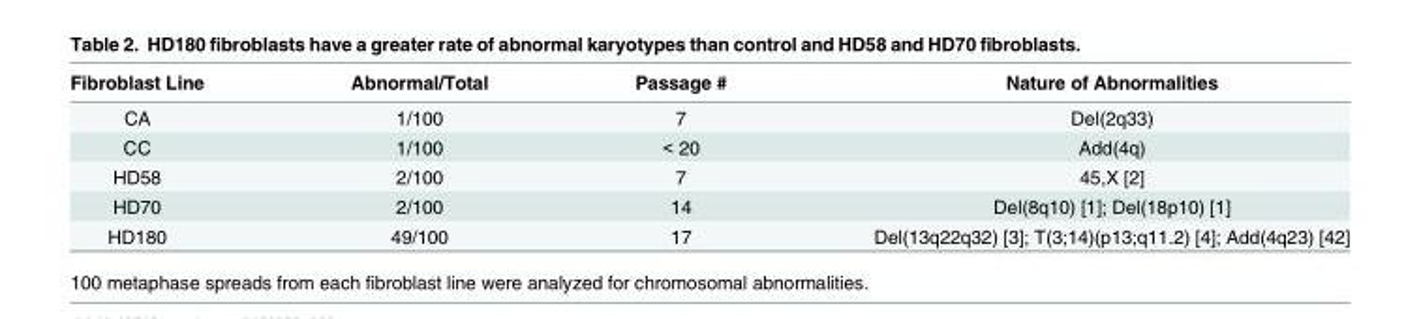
<table><thead><tr><td>Fibroblast Line</td><td>Abnormal/Total</td><td>Passage #</td><td>Nature of Abnormalities</td></tr></thead><tbody><tr><td>CA</td><td>1/100</td><td>7</td><td>Del(2q33)</td></tr><tr><td>CC</td><td>1/100</td><td>&lt; 20</td><td>Add(4q)</td></tr><tr><td>HD58</td><td>2/100</td><td>7</td><td>45,X [2]</td></tr><tr><td>HD70</td><td>2/100</td><td>14</td><td>Del(8q10) [1]; Del(18p10) [1]</td></tr><tr><td>HD180</td><td>49/100</td><td>17</td><td>Del(13q22q32) [3]; T(3;14)(p13;q11.2) [4]; Add(4q23) [42]</td></tr></tbody></table>